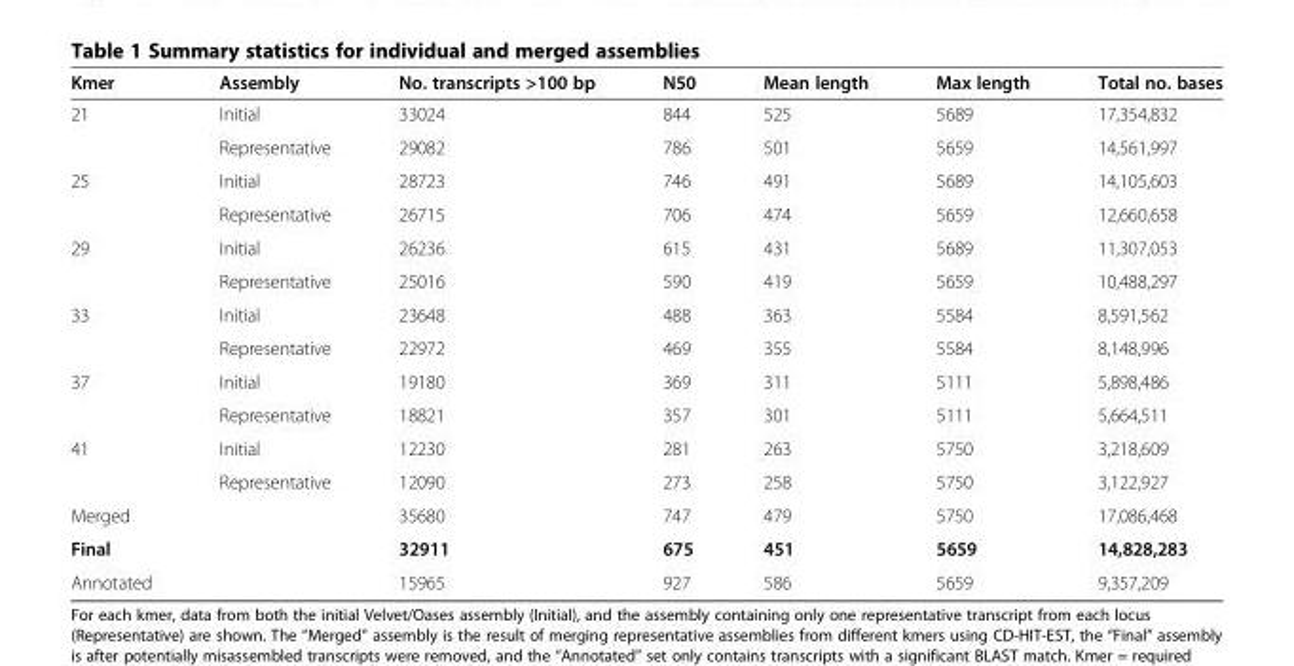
<table><thead><tr><td>Kmer</td><td>Assembly</td><td>No. transcripts &gt;100 bp</td><td>N50</td><td>Mean length</td><td>Max length</td><td>Total no. bases</td></tr></thead><tbody><tr><td rowspan="2">21</td><td>Initial</td><td>33024</td><td>844</td><td>525</td><td>5689</td><td>17,354,832</td></tr><tr><td>Representative</td><td>29082</td><td>786</td><td>501</td><td>5659</td><td>14,561,997</td></tr><tr><td rowspan="2">25</td><td>Initial</td><td>28723</td><td>746</td><td>491</td><td>5689</td><td>14,105,603</td></tr><tr><td>Representative</td><td>26715</td><td>706</td><td>474</td><td>5659</td><td>12,660,658</td></tr><tr><td rowspan="2">29</td><td>Initial</td><td>26236</td><td>615</td><td>431</td><td>5689</td><td>11,307,053</td></tr><tr><td>Representative</td><td>25016</td><td>590</td><td>419</td><td>5659</td><td>10,488,297</td></tr><tr><td rowspan="2">33</td><td>Initial</td><td>23648</td><td>488</td><td>363</td><td>5584</td><td>8,591,562</td></tr><tr><td>Representative</td><td>22972</td><td>469</td><td>355</td><td>5584</td><td>8,148,996</td></tr><tr><td rowspan="2">37</td><td>Initial</td><td>19180</td><td>369</td><td>311</td><td>5111</td><td>5,898,486</td></tr><tr><td>Representative</td><td>18821</td><td>357</td><td>301</td><td>5111</td><td>5,664,511</td></tr><tr><td rowspan="2">41</td><td>Initial</td><td>12230</td><td>281</td><td>263</td><td>5750</td><td>3,218,609</td></tr><tr><td>Representative</td><td>12090</td><td>273</td><td>258</td><td>5750</td><td>3,122,927</td></tr><tr><td>Merged</td><td></td><td>35680</td><td>747</td><td>479</td><td>5750</td><td>17,086,468</td></tr><tr><td>Final</td><td></td><td>32911</td><td>675</td><td>451</td><td>5659</td><td>14,828,283</td></tr><tr><td>Annotated</td><td></td><td>15965</td><td>927</td><td>586</td><td>5659</td><td>9,357,209</td></tr></tbody></table>